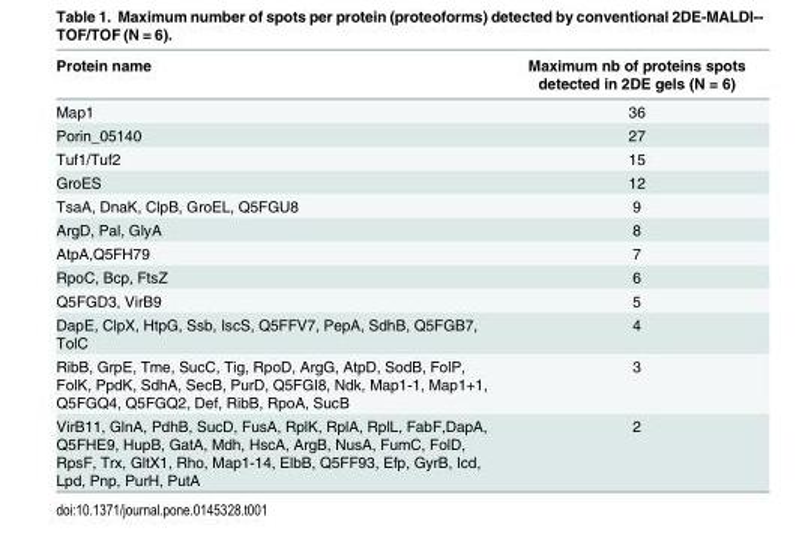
<table><thead><tr><td>Protein name</td><td>Maximum nb of proteins spots detected in 2DE gels (N = 6)</td></tr></thead><tbody><tr><td>Map1</td><td>36</td></tr><tr><td>Porin_05140</td><td>27</td></tr><tr><td>Tuf1/Tuf2</td><td>15</td></tr><tr><td>GroES</td><td>12</td></tr><tr><td>TsaA, DnaK, ClpB, GroEL, Q5FGU8</td><td>9</td></tr><tr><td>ArgD, Pal, GlyA</td><td>8</td></tr><tr><td>AtpA,Q5FH79</td><td>7</td></tr><tr><td>RpoC, Bcp, FtsZ</td><td>6</td></tr><tr><td>Q5FGD3, VirB9</td><td>5</td></tr><tr><td>DapE, ClpX, HtpG, Ssb, IscS, Q5FFV7, PepA, SdhB, Q5FGB7, TolC</td><td>4</td></tr><tr><td>RibB, GrpE, Tme, SucC, Tig, RpoD, ArgG, AtpD, SodB, FolP, FolK, PpdK, SdhA, SecB, PurD, Q5FGI8, Ndk, Map1-1, Map1+1, Q5FGQ4, Q5FGQ2, Def, RibB, RpoA, SucB</td><td>3</td></tr><tr><td>VirB11, GlnA, PdhB, SucD, FusA, RplK, RplA, RplL, FabF,DapA, Q5FHE9, HupB, GatA, Mdh, HscA, ArgB, NusA, FumC, FolD, RpsF, Trx, GltX1, Rho, Map1-14, ElbB, Q5FF93, Efp, GyrB, Icd, Lpd, Pnp, PurH, PutA</td><td>2</td></tr></tbody></table>